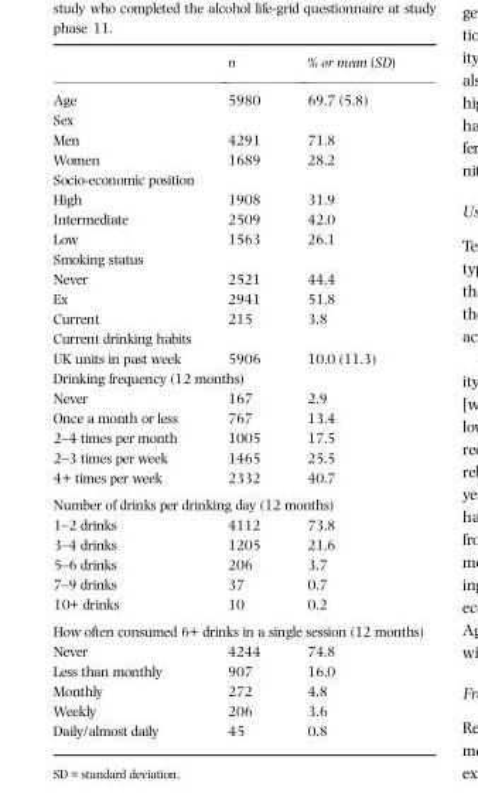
<table><thead><tr><td></td><td>n</td><td>% or mean (SD)</td></tr></thead><tbody><tr><td>Age</td><td>5980</td><td>69.7 (5.8)</td></tr><tr><td colspan="3">Sex</td></tr><tr><td>Men</td><td>4291</td><td>71.8</td></tr><tr><td>Women</td><td>1689</td><td>28.2</td></tr><tr><td colspan="3">Socio-economic position</td></tr><tr><td>High</td><td>1908</td><td>31.9</td></tr><tr><td>Intermediate</td><td>2509</td><td>42.0</td></tr><tr><td>Low</td><td>1563</td><td>26.1</td></tr><tr><td colspan="3">Smoking status</td></tr><tr><td>Never</td><td>2521</td><td>44.4</td></tr><tr><td>Ex</td><td>2941</td><td>51.8</td></tr><tr><td>Current</td><td>215</td><td>3.8</td></tr><tr><td colspan="3">Current drinking habits</td></tr><tr><td>UK units in past week</td><td>5906</td><td>10.0 (11.3)</td></tr><tr><td colspan="3">Drinking frequency (12 months)</td></tr><tr><td>Never</td><td>167</td><td>2.9</td></tr><tr><td>Once a month or less</td><td>767</td><td>13.4</td></tr><tr><td>2–4 times per month</td><td>1005</td><td>17.5</td></tr><tr><td>2–3 times per week</td><td>1465</td><td>25.5</td></tr><tr><td>4+ times per week</td><td>2332</td><td>40.7</td></tr><tr><td colspan="3">Number of drinks per drinking day (12 months)</td></tr><tr><td>1–2 drinks</td><td>4112</td><td>73.8</td></tr><tr><td>3–4 drinks</td><td>1205</td><td>21.6</td></tr><tr><td>5–6 drinks</td><td>206</td><td>3.7</td></tr><tr><td>7–9 drinks</td><td>37</td><td>0.7</td></tr><tr><td>10+ drinks</td><td>10</td><td>0.2</td></tr><tr><td colspan="3">How often consumed 6+ drinks in a single session (12 months)</td></tr><tr><td>Never</td><td>4244</td><td>74.8</td></tr><tr><td>Less than monthly</td><td>907</td><td>16.0</td></tr><tr><td>Monthly</td><td>272</td><td>4.8</td></tr><tr><td>Weekly</td><td>206</td><td>3.6</td></tr><tr><td>Daily/almost daily</td><td>45</td><td>0.8</td></tr></tbody></table>